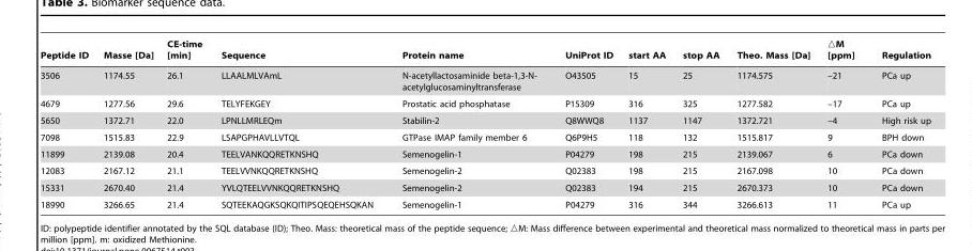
<table><thead><tr><td>Peptide ID</td><td>Masse [Da]</td><td>CE-time [min]</td><td>Sequence</td><td>Protein name</td><td>UniProt ID</td><td>start AA</td><td>stop AA</td><td>Theo. Mass [Da]</td><td>▵M [ppm]</td><td>Regulation</td></tr></thead><tbody><tr><td>3506</td><td>1174.55</td><td>26.1</td><td>LLAALMLVAmL</td><td>N-acetyllactosaminide beta-1,3-N- acetylglucosaminyltransferase</td><td>O43505</td><td>15</td><td>25</td><td>1174.575</td><td>–21</td><td>PCa up</td></tr><tr><td>4679</td><td>1277.56</td><td>29.6</td><td>TELYFEKGEY</td><td>Prostatic acid phosphatase</td><td>P15309</td><td>316</td><td>325</td><td>1277.582</td><td>–17</td><td>PCa up</td></tr><tr><td>5650</td><td>1372.71</td><td>22.0</td><td>LPNLLMRLEQm</td><td>Stabilin-2</td><td>Q8WWQ8</td><td>1137</td><td>1147</td><td>1372.721</td><td>–4</td><td>High risk up</td></tr><tr><td>7098</td><td>1515.83</td><td>22.9</td><td>LSAPGPHAVLLVTQL</td><td>GTPase IMAP family member 6</td><td>Q6P9H5</td><td>118</td><td>132</td><td>1515.817</td><td>9</td><td>BPH down</td></tr><tr><td>11899</td><td>2139.08</td><td>20.4</td><td>TEELVANKQQRETKNSHQ</td><td>Semenogelin-1</td><td>P04279</td><td>198</td><td>215</td><td>2139.067</td><td>6</td><td>PCa down</td></tr><tr><td>12083</td><td>2167.12</td><td>21.1</td><td>TEELVVNKQQRETKNSHQ</td><td>Semenogelin-2</td><td>Q02383</td><td>198</td><td>215</td><td>2167.098</td><td>10</td><td>PCa down</td></tr><tr><td>15331</td><td>2670.40</td><td>21.4</td><td>YVLQTEELVVNKQQRETKNSHQ</td><td>Semenogelin-2</td><td>Q02383</td><td>194</td><td>215</td><td>2670.373</td><td>10</td><td>PCa down</td></tr><tr><td>18990</td><td>3266.65</td><td>21.4</td><td>SQTEEKAQGKSQKQITIPSQEQEHSQKAN</td><td>Semenogelin-1</td><td>P04279</td><td>316</td><td>344</td><td>3266.613</td><td>11</td><td>PCa up</td></tr></tbody></table>